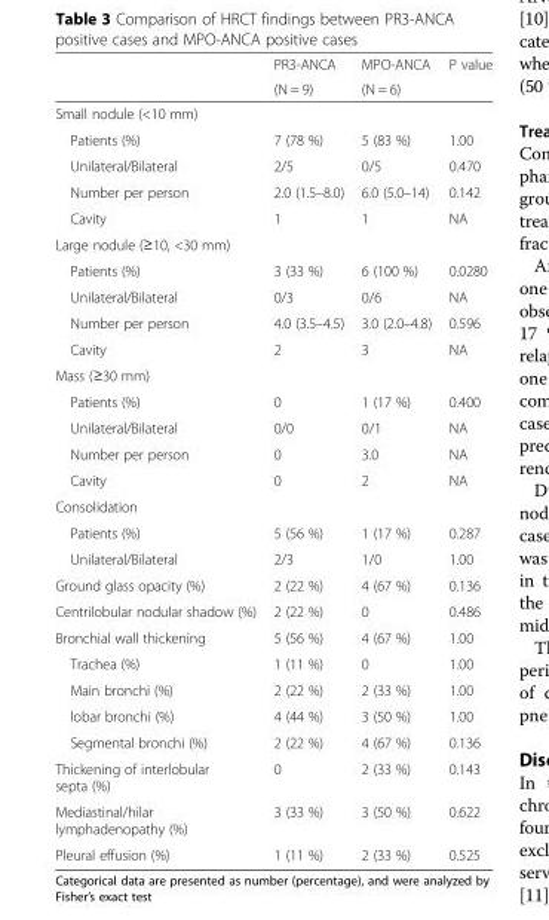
<table><thead><tr><td rowspan="2"></td><td rowspan="2">PR3-ANCA (N = 9)</td><td rowspan="2">MPO-ANCA (N = 6)</td><td rowspan="2">P value</td></tr><tr></tr></thead><tbody><tr><td colspan="4">Small nodule (&lt;10 mm)</td></tr><tr><td>Patients (%)</td><td>7 (78 %)</td><td>5 (83 %)</td><td>1.00</td></tr><tr><td>Unilateral/Bilateral</td><td>2/5</td><td>0/5</td><td>0.470</td></tr><tr><td>Number per person</td><td>2.0 (1.5–8.0)</td><td>6.0 (5.0–14)</td><td>0.142</td></tr><tr><td>Cavity</td><td>1</td><td>1</td><td>NA</td></tr><tr><td colspan="4">Large nodule (≥10, &lt;30 mm)</td></tr><tr><td>Patients (%)</td><td>3 (33 %)</td><td>6 (100 %)</td><td>0.0280</td></tr><tr><td>Unilateral/Bilateral</td><td>0/3</td><td>0/6</td><td>NA</td></tr><tr><td>Number per person</td><td>4.0 (3.5–4.5)</td><td>3.0 (2.0–4.8)</td><td>0.596</td></tr><tr><td>Cavity</td><td>2</td><td>3</td><td>NA</td></tr><tr><td colspan="4">Mass (≥30 mm)</td></tr><tr><td>Patients (%)</td><td>0</td><td>1 (17 %)</td><td>0.400</td></tr><tr><td>Unilateral/Bilateral</td><td>0/0</td><td>0/1</td><td>NA</td></tr><tr><td>Number per person</td><td>0</td><td>3.0</td><td>NA</td></tr><tr><td>Cavity</td><td>0</td><td>2</td><td>NA</td></tr><tr><td colspan="4">Consolidation</td></tr><tr><td>Patients (%)</td><td>5 (56 %)</td><td>1 (17 %)</td><td>0.287</td></tr><tr><td>Unilateral/Bilateral</td><td>2/3</td><td>1/0</td><td>1.00</td></tr><tr><td>Ground glass opacity (%)</td><td>2 (22 %)</td><td>4 (67 %)</td><td>0.136</td></tr><tr><td>Centrilobular nodular shadow (%)</td><td>2 (22 %)</td><td>0</td><td>0.486</td></tr><tr><td>Bronchial wall thickening</td><td>5 (56 %)</td><td>4 (67 %)</td><td>1.00</td></tr><tr><td>Trachea (%)</td><td>1 (11 %)</td><td>0</td><td>1.00</td></tr><tr><td>Main bronchi (%)</td><td>2 (22 %)</td><td>2 (33 %)</td><td>1.00</td></tr><tr><td>lobar bronchi (%)</td><td>4 (44 %)</td><td>3 (50 %)</td><td>1.00</td></tr><tr><td>Segmental bronchi (%)</td><td>2 (22 %)</td><td>4 (67 %)</td><td>0.136</td></tr><tr><td>Thickening of interlobular septa (%)</td><td>0</td><td>2 (33 %)</td><td>0.143</td></tr><tr><td>Mediastinal/hilar lymphadenopathy (%)</td><td>3 (33 %)</td><td>3 (50 %)</td><td>0.622</td></tr><tr><td>Pleural effusion (%)</td><td>1 (11 %)</td><td>2 (33 %)</td><td>0.525</td></tr></tbody></table>